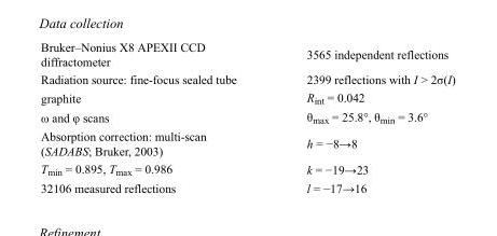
<table><tbody><tr><td>Bruker–Nonius X8 APEXII CCD diffractometer</td><td>3565 independent reflections</td></tr><tr><td>Radiation source: fine-focus sealed tube</td><td>2399 reflections with I &gt; 2σ(I)</td></tr><tr><td>graphite</td><td>R<sub>int</sub> = 0.042</td></tr><tr><td>ω and φ scans</td><td>θ<sub>max</sub> = 25.8°, θ<sub>min</sub> = 3.6°</td></tr><tr><td>Absorption correction: multi-scan (SADABS; Bruker, 2003)</td><td>h = −8→8</td></tr><tr><td>T<sub>min</sub> = 0.895, T<sub>max</sub> = 0.986</td><td>k = −19→23</td></tr><tr><td>32106 measured reflections</td><td>l = −17→16</td></tr></tbody></table>